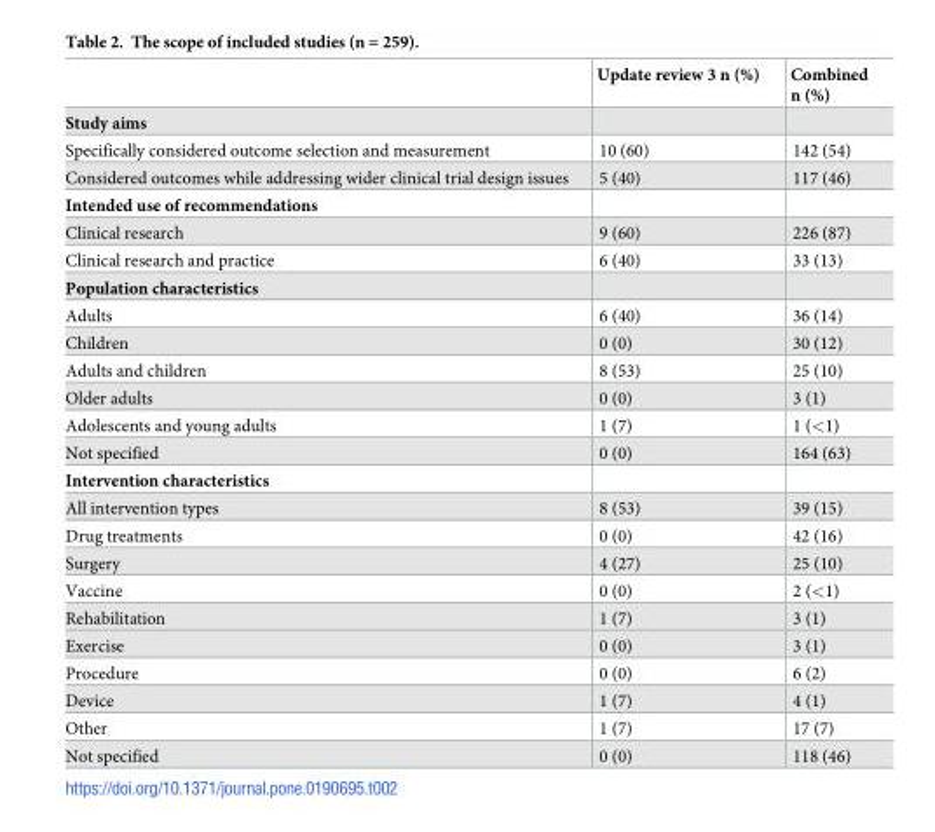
<table><thead><tr><td></td><td>Update review 3 n (%)</td><td>Combined n (%)</td></tr></thead><tbody><tr><td colspan="3">Study aims</td></tr><tr><td>Specifically considered outcome selection and measurement</td><td>10 (60)</td><td>142 (54)</td></tr><tr><td>Considered outcomes while addressing wider clinical trial design issues</td><td>5 (40)</td><td>117 (46)</td></tr><tr><td colspan="3">Intended use of recommendations</td></tr><tr><td>Clinical research</td><td>9 (60)</td><td>226 (87)</td></tr><tr><td>Clinical research and practice</td><td>6 (40)</td><td>33 (13)</td></tr><tr><td colspan="3">Population characteristics</td></tr><tr><td>Adults</td><td>6 (40)</td><td>36 (14)</td></tr><tr><td>Children</td><td>0 (0)</td><td>30 (12)</td></tr><tr><td>Adults and children</td><td>8 (53)</td><td>25 (10)</td></tr><tr><td>Older adults</td><td>0 (0)</td><td>3 (1)</td></tr><tr><td>Adolescents and young adults</td><td>1 (7)</td><td>1 (&lt;1)</td></tr><tr><td>Not specified</td><td>0 (0)</td><td>164 (63)</td></tr><tr><td colspan="3">Intervention characteristics</td></tr><tr><td>All intervention types</td><td>8 (53)</td><td>39 (15)</td></tr><tr><td>Drug treatments</td><td>0 (0)</td><td>42 (16)</td></tr><tr><td>Surgery</td><td>4 (27)</td><td>25 (10)</td></tr><tr><td>Vaccine</td><td>0 (0)</td><td>2 (&lt;1)</td></tr><tr><td>Rehabilitation</td><td>1 (7)</td><td>3 (1)</td></tr><tr><td>Exercise</td><td>0 (0)</td><td>3 (1)</td></tr><tr><td>Procedure</td><td>0 (0)</td><td>6 (2)</td></tr><tr><td>Device</td><td>1 (7)</td><td>4 (1)</td></tr><tr><td>Other</td><td>1 (7)</td><td>17 (7)</td></tr><tr><td>Not specified</td><td>0 (0)</td><td>118 (46)</td></tr></tbody></table>